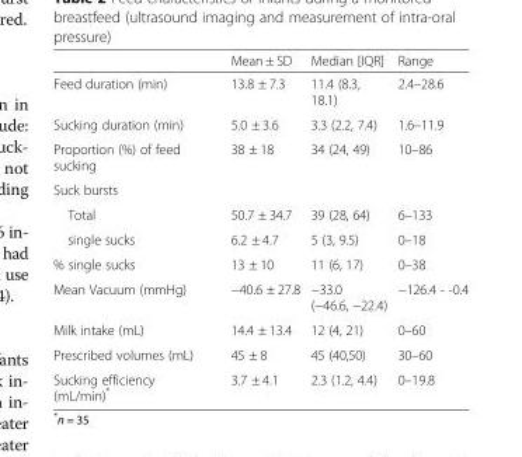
<table><thead><tr><td></td><td>Mean ± SD</td><td>Median [IQR]</td><td>Range</td></tr></thead><tbody><tr><td>Feed duration (min)</td><td>13.8 ± 7.3</td><td>11.4 (8.3, 18.1)</td><td>2.4–28.6</td></tr><tr><td>Sucking duration (min)</td><td>5.0 ± 3.6</td><td>3.3 (2.2, 7.4)</td><td>1.6–11.9</td></tr><tr><td>Proportion (%) of feed sucking</td><td>38 ± 18</td><td>34 (24, 49)</td><td>10–86</td></tr><tr><td colspan="4">Suck bursts</td></tr><tr><td>Total</td><td>50.7 ± 34.7</td><td>39 (28, 64)</td><td>6–133</td></tr><tr><td>single sucks</td><td>6.2 ± 4.7</td><td>5 (3, 9.5)</td><td>0–18</td></tr><tr><td>% single sucks</td><td>13 ± 10</td><td>11 (6, 17)</td><td>0–38</td></tr><tr><td>Mean Vacuum (mmHg)</td><td>−40.6 ± 27.8</td><td>−33.0 (−46.6, −22.4)</td><td>−126.4 - -0.4</td></tr><tr><td>Milk intake (mL)</td><td>14.4 ± 13.4</td><td>12 (4, 21)</td><td>0–60</td></tr><tr><td>Prescribed volumes (mL)</td><td>45 ± 8</td><td>45 (40,50)</td><td>30–60</td></tr><tr><td>Sucking efficiency (mL/min)*</td><td>3.7 ± 4.1</td><td>2.3 (1.2, 4.4)</td><td>0–19.8</td></tr></tbody></table>